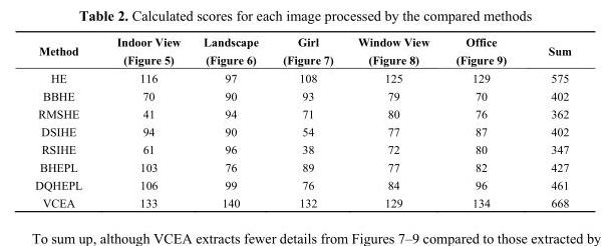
<table><thead><tr><td>Method</td><td>Indoor View (Figure 5)</td><td>Landscape (Figure 6)</td><td>Girl (Figure 7)</td><td>Window View (Figure 8)</td><td>Office (Figure 9)</td><td>Sum</td></tr></thead><tbody><tr><td>HE</td><td>116</td><td>97</td><td>108</td><td>125</td><td>129</td><td>575</td></tr><tr><td>BBHE</td><td>70</td><td>90</td><td>93</td><td>79</td><td>70</td><td>402</td></tr><tr><td>RMSHE</td><td>41</td><td>94</td><td>71</td><td>80</td><td>76</td><td>362</td></tr><tr><td>DSIHE</td><td>94</td><td>90</td><td>54</td><td>77</td><td>87</td><td>402</td></tr><tr><td>RSIHE</td><td>61</td><td>96</td><td>38</td><td>72</td><td>80</td><td>347</td></tr><tr><td>BHEPL</td><td>103</td><td>76</td><td>89</td><td>77</td><td>82</td><td>427</td></tr><tr><td>DQHEPL</td><td>106</td><td>99</td><td>76</td><td>84</td><td>96</td><td>461</td></tr><tr><td>VCEA</td><td>133</td><td>140</td><td>132</td><td>129</td><td>134</td><td>668</td></tr></tbody></table>